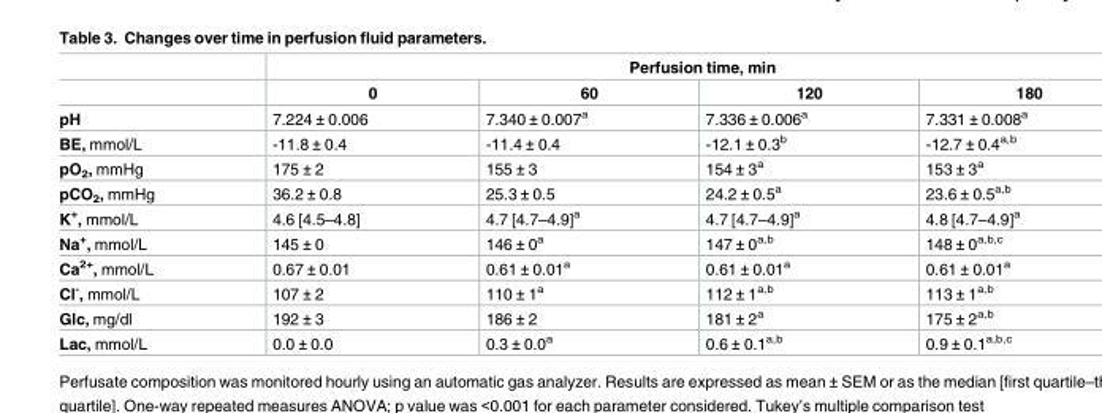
<table><thead><tr><td rowspan="2"></td><td colspan="4">Perfusion time, min</td></tr><tr><td>0</td><td>60</td><td>120</td><td>180</td></tr></thead><tbody><tr><td>pH</td><td>7.224 ± 0.006</td><td>7.340 ± 0.007<sup>a</sup></td><td>7.336 ± 0.006<sup>a</sup></td><td>7.331 ± 0.008<sup>a</sup></td></tr><tr><td>BE, mmol/L</td><td>-11.8 ± 0.4</td><td>-11.4 ± 0.4</td><td>-12.1 ± 0.3<sup>b</sup></td><td>-12.7 ± 0.4<sup>a,b</sup></td></tr><tr><td>pO<sub>2</sub>, mmHg</td><td>175 ± 2</td><td>155 ± 3</td><td>154 ± 3<sup>a</sup></td><td>153 ± 3<sup>a</sup></td></tr><tr><td>pCO<sub>2</sub>, mmHg</td><td>36.2 ± 0.8</td><td>25.3 ± 0.5</td><td>24.2 ± 0.5<sup>a</sup></td><td>23.6 ± 0.5<sup>a,b</sup></td></tr><tr><td>K<sup>+</sup>, mmol/L</td><td>4.6 [4.5–4.8]</td><td>4.7 [4.7–4.9]<sup>a</sup></td><td>4.7 [4.7–4.9]<sup>a</sup></td><td>4.8 [4.7–4.9]<sup>a</sup></td></tr><tr><td>Na<sup>+</sup>, mmol/L</td><td>145 ± 0</td><td>146 ± 0<sup>a</sup></td><td>147 ± 0<sup>a,b</sup></td><td>148 ± 0<sup>a,b,c</sup></td></tr><tr><td>Ca<sup>2+</sup>, mmol/L</td><td>0.67 ± 0.01</td><td>0.61 ± 0.01<sup>a</sup></td><td>0.61 ± 0.01<sup>a</sup></td><td>0.61 ± 0.01<sup>a</sup></td></tr><tr><td>Cl<sup>-</sup>, mmol/L</td><td>107 ± 2</td><td>110 ± 1<sup>a</sup></td><td>112 ± 1<sup>a,b</sup></td><td>113 ± 1<sup>a,b</sup></td></tr><tr><td>Glc, mg/dl</td><td>192 ± 3</td><td>186 ± 2</td><td>181 ± 2<sup>a</sup></td><td>175 ± 2<sup>a,b</sup></td></tr><tr><td>Lac, mmol/L</td><td>0.0 ± 0.0</td><td>0.3 ± 0.0<sup>a</sup></td><td>0.6 ± 0.1<sup>a,b</sup></td><td>0.9 ± 0.1<sup>a,b,c</sup></td></tr></tbody></table>